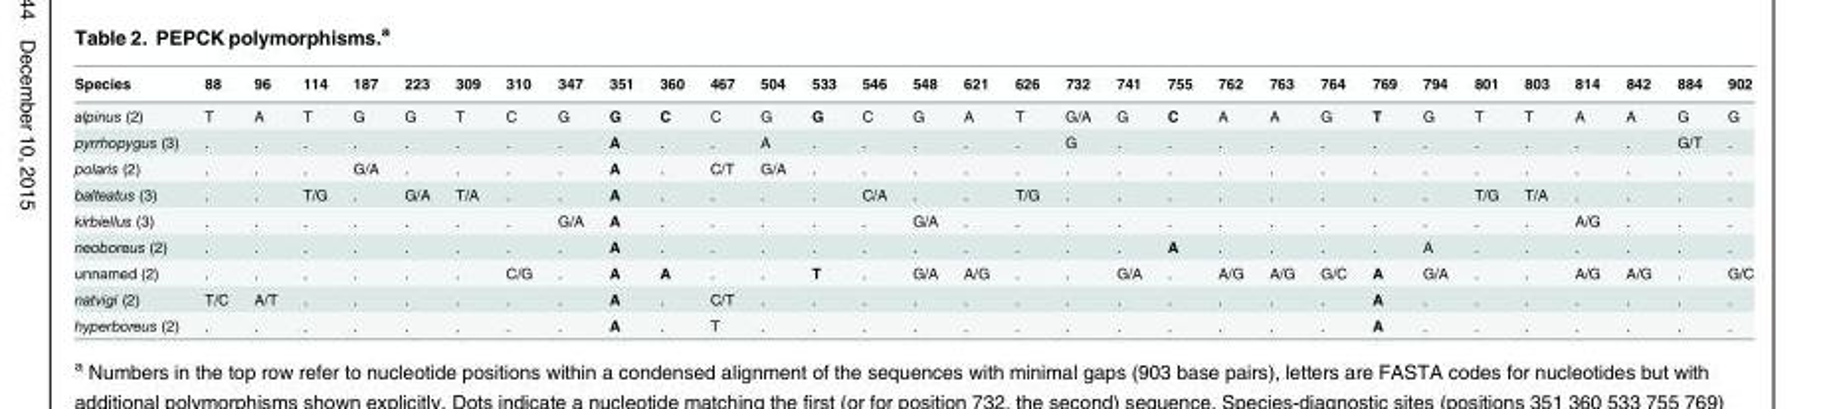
<table><thead><tr><td>Species</td><td>88</td><td>96</td><td>114</td><td>187</td><td>223</td><td>309</td><td>310</td><td>347</td><td>351</td><td>360</td><td>467</td><td>504</td><td>533</td><td>546</td><td>548</td><td>621</td><td>626</td><td>732</td><td>741</td><td>755</td><td>762</td><td>763</td><td>764</td><td>769</td><td>794</td><td>801</td><td>803</td><td>814</td><td>842</td><td>884</td><td>902</td></tr></thead><tbody><tr><td>alpinus (2)</td><td>T</td><td>A</td><td>T</td><td>G</td><td>G</td><td>T</td><td>C</td><td>G</td><td>G</td><td>C</td><td>C</td><td>G</td><td>G</td><td>C</td><td>G</td><td>A</td><td>T</td><td>G/A</td><td>G</td><td>C</td><td>A</td><td>A</td><td>G</td><td>T</td><td>G</td><td>T</td><td>T</td><td>A</td><td>A</td><td>G</td><td>G</td></tr><tr><td>pyrrhopygus (3)</td><td>.</td><td>.</td><td>.</td><td>.</td><td>.</td><td>.</td><td>.</td><td>.</td><td>A</td><td>.</td><td>.</td><td>A</td><td>.</td><td>.</td><td>.</td><td>.</td><td>.</td><td>G</td><td>.</td><td>.</td><td>.</td><td>.</td><td>.</td><td>.</td><td>.</td><td>.</td><td>.</td><td>.</td><td>.</td><td>G/T</td><td>.</td></tr><tr><td>polaris (2)</td><td>.</td><td>.</td><td>.</td><td>G/A</td><td>.</td><td>.</td><td>.</td><td>.</td><td>A</td><td>.</td><td>C/T</td><td>G/A</td><td>.</td><td>.</td><td>.</td><td>.</td><td>.</td><td>.</td><td>.</td><td>.</td><td>.</td><td>.</td><td>.</td><td>.</td><td>.</td><td>.</td><td>.</td><td>.</td><td>.</td><td>.</td><td>.</td></tr><tr><td>balteatus (3)</td><td>.</td><td>.</td><td>T/G</td><td>.</td><td>G/A</td><td>T/A</td><td>.</td><td>.</td><td>A</td><td>.</td><td>.</td><td>.</td><td>.</td><td>C/A</td><td>.</td><td>.</td><td>T/G</td><td>.</td><td>.</td><td>.</td><td>.</td><td>.</td><td>.</td><td>.</td><td>.</td><td>T/G</td><td>T/A</td><td>.</td><td>.</td><td>.</td><td>.</td></tr><tr><td>kirbiellus (3)</td><td>.</td><td>.</td><td>.</td><td>.</td><td>.</td><td>.</td><td>.</td><td>G/A</td><td>A</td><td>.</td><td>.</td><td>.</td><td>.</td><td>.</td><td>G/A</td><td>.</td><td>.</td><td>.</td><td>.</td><td>.</td><td>.</td><td>.</td><td>.</td><td>.</td><td>.</td><td>.</td><td>.</td><td>A/G</td><td>.</td><td>.</td><td>.</td></tr><tr><td>neoboreus (2)</td><td>.</td><td>.</td><td>.</td><td>.</td><td>.</td><td>.</td><td>.</td><td>.</td><td>A</td><td>.</td><td>.</td><td>.</td><td>.</td><td>.</td><td>.</td><td>.</td><td>.</td><td>.</td><td>.</td><td>A</td><td>.</td><td>.</td><td>.</td><td>.</td><td>A</td><td>.</td><td>.</td><td>.</td><td>.</td><td>.</td><td>.</td></tr><tr><td>unnamed (2)</td><td>.</td><td>.</td><td>.</td><td>.</td><td>.</td><td>.</td><td>C/G</td><td>.</td><td>A</td><td>A</td><td>.</td><td>.</td><td>T</td><td>.</td><td>G/A</td><td>A/G</td><td>.</td><td>.</td><td>G/A</td><td>.</td><td>A/G</td><td>A/G</td><td>G/C</td><td>A</td><td>G/A</td><td>.</td><td>.</td><td>A/G</td><td>A/G</td><td>.</td><td>G/C</td></tr><tr><td>natvigi (2)</td><td>T/C</td><td>A/T</td><td>.</td><td>.</td><td>.</td><td>.</td><td>.</td><td>.</td><td>A</td><td>.</td><td>C/T</td><td>.</td><td>.</td><td>.</td><td>.</td><td>.</td><td>.</td><td>.</td><td>.</td><td>.</td><td>.</td><td>.</td><td>.</td><td>A</td><td>.</td><td>.</td><td>.</td><td>.</td><td>.</td><td>.</td><td>.</td></tr><tr><td>hyperboreus (2)</td><td>.</td><td>.</td><td>.</td><td>.</td><td>.</td><td>.</td><td>.</td><td>.</td><td>A</td><td>.</td><td>T</td><td>.</td><td>.</td><td>.</td><td>.</td><td>.</td><td>.</td><td>.</td><td>.</td><td>.</td><td>.</td><td>.</td><td>.</td><td>A</td><td>.</td><td>.</td><td>.</td><td>.</td><td>.</td><td>.</td><td>.</td></tr></tbody></table>